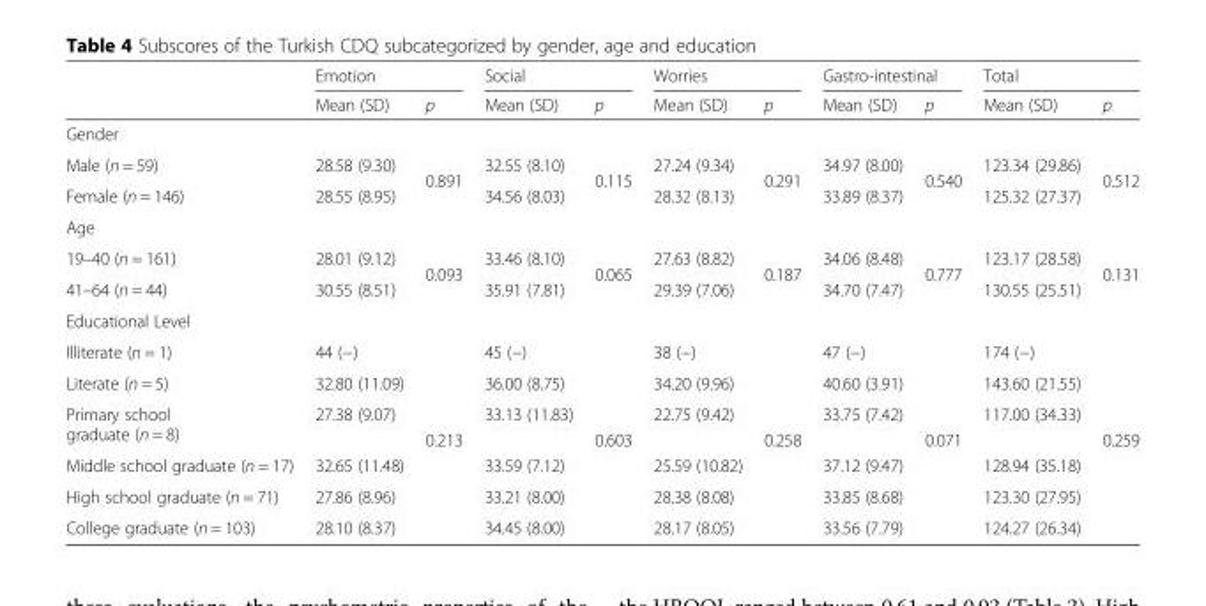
<table><thead><tr><td rowspan="2"></td><td colspan="2">Emotion</td><td colspan="2">Social</td><td colspan="2">Worries</td><td colspan="2">Gastro-intestinal</td><td colspan="2">Total</td></tr><tr><td>Mean (SD)</td><td>p</td><td>Mean (SD)</td><td>p</td><td>Mean (SD)</td><td>p</td><td>Mean (SD)</td><td>p</td><td>Mean (SD)</td><td>p</td></tr></thead><tbody><tr><td colspan="11">Gender</td></tr><tr><td>Male (n = 59)</td><td>28.58 (9.30)</td><td rowspan="2">0.891</td><td>32.55 (8.10)</td><td rowspan="2">0.115</td><td>27.24 (9.34)</td><td rowspan="2">0.291</td><td>34.97 (8.00)</td><td rowspan="2">0.540</td><td>123.34 (29.86)</td><td rowspan="2">0.512</td></tr><tr><td>Female (n = 146)</td><td>28.55 (8.95)</td><td>34.56 (8.03)</td><td>28.32 (8.13)</td><td>33.89 (8.37)</td><td>125.32 (27.37)</td></tr><tr><td colspan="11">Age</td></tr><tr><td>19–40 (n = 161)</td><td>28.01 (9.12)</td><td rowspan="2">0.093</td><td>33.46 (8.10)</td><td rowspan="2">0.065</td><td>27.63 (8.82)</td><td rowspan="2">0.187</td><td>34.06 (8.48)</td><td rowspan="2">0.777</td><td>123.17 (28.58)</td><td rowspan="2">0.131</td></tr><tr><td>41–64 (n = 44)</td><td>30.55 (8.51)</td><td>35.91 (7.81)</td><td>29.39 (7.06)</td><td>34.70 (7.47)</td><td>130.55 (25.51)</td></tr><tr><td colspan="11">Educational Level</td></tr><tr><td>Illiterate (n = 1)</td><td>44 (−)</td><td rowspan="6">0.213</td><td>45 (−)</td><td rowspan="6">0.603</td><td>38 (−)</td><td rowspan="6">0.258</td><td>47 (−)</td><td rowspan="6">0.071</td><td>174 (−)</td><td rowspan="6">0.259</td></tr><tr><td>Literate (n = 5)</td><td>32.80 (11.09)</td><td>36.00 (8.75)</td><td>34.20 (9.96)</td><td>40.60 (3.91)</td><td>143.60 (21.55)</td></tr><tr><td>Primary school graduate (n = 8)</td><td>27.38 (9.07)</td><td>33.13 (11.83)</td><td>22.75 (9.42)</td><td>33.75 (7.42)</td><td>117.00 (34.33)</td></tr><tr><td>Middle school graduate (n = 17)</td><td>32.65 (11.48)</td><td>33.59 (7.12)</td><td>25.59 (10.82)</td><td>37.12 (9.47)</td><td>128.94 (35.18)</td></tr><tr><td>High school graduate (n = 71)</td><td>27.86 (8.96)</td><td>33.21 (8.00)</td><td>28.38 (8.08)</td><td>33.85 (8.68)</td><td>123.30 (27.95)</td></tr><tr><td>College graduate (n = 103)</td><td>28.10 (8.37)</td><td>34.45 (8.00)</td><td>28.17 (8.05)</td><td>33.56 (7.79)</td><td>124.27 (26.34)</td></tr></tbody></table>